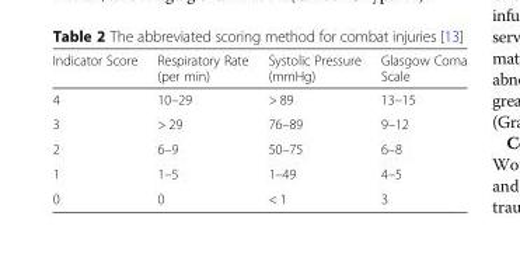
<table><thead><tr><td>Indicator Score</td><td>Respiratory Rate (per min)</td><td>Systolic Pressure (mmHg)</td><td>Glasgow Coma Scale</td></tr></thead><tbody><tr><td>4</td><td>10–29</td><td>&gt; 89</td><td>13–15</td></tr><tr><td>3</td><td>&gt; 29</td><td>76–89</td><td>9–12</td></tr><tr><td>2</td><td>6–9</td><td>50–75</td><td>6–8</td></tr><tr><td>1</td><td>1–5</td><td>1–49</td><td>4–5</td></tr><tr><td>0</td><td>0</td><td>&lt; 1</td><td>3</td></tr></tbody></table>